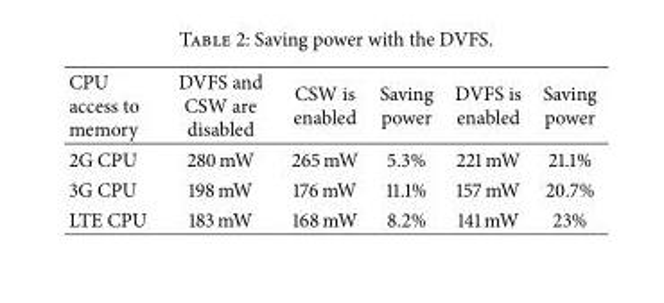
<table><thead><tr><td>CPU access to memory</td><td>DVFS and CSW are disabled</td><td>CSW is enabled</td><td>Saving power</td><td>DVFS is enabled</td><td>Saving power</td></tr></thead><tbody><tr><td>2G CPU</td><td>280 mW</td><td>265 mW</td><td>5.3%</td><td>221 mW</td><td>21.1%</td></tr><tr><td>3G CPU</td><td>198 mW</td><td>176 mW</td><td>11.1%</td><td>157 mW</td><td>20.7%</td></tr><tr><td>LTE CPU</td><td>183 mW</td><td>168 mW</td><td>8.2%</td><td>141 mW</td><td>23%</td></tr></tbody></table>